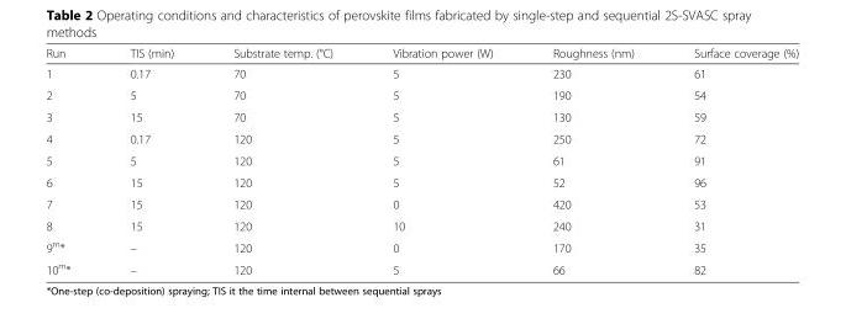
<table><thead><tr><td>Run</td><td>TIS (min)</td><td>Substrate temp. (°C)</td><td>Vibration power (W)</td><td>Roughness (nm)</td><td>Surface coverage (%)</td></tr></thead><tbody><tr><td>1</td><td>0.17</td><td>70</td><td>5</td><td>230</td><td>61</td></tr><tr><td>2</td><td>5</td><td>70</td><td>5</td><td>190</td><td>54</td></tr><tr><td>3</td><td>15</td><td>70</td><td>5</td><td>130</td><td>59</td></tr><tr><td>4</td><td>0.17</td><td>120</td><td>5</td><td>250</td><td>72</td></tr><tr><td>5</td><td>5</td><td>120</td><td>5</td><td>61</td><td>91</td></tr><tr><td>6</td><td>15</td><td>120</td><td>5</td><td>52</td><td>96</td></tr><tr><td>7</td><td>15</td><td>120</td><td>0</td><td>420</td><td>53</td></tr><tr><td>8</td><td>15</td><td>120</td><td>10</td><td>240</td><td>31</td></tr><tr><td>9<sup>m</sup>*</td><td>–</td><td>120</td><td>0</td><td>170</td><td>35</td></tr><tr><td>10<sup>m</sup>*</td><td>–</td><td>120</td><td>5</td><td>66</td><td>82</td></tr></tbody></table>